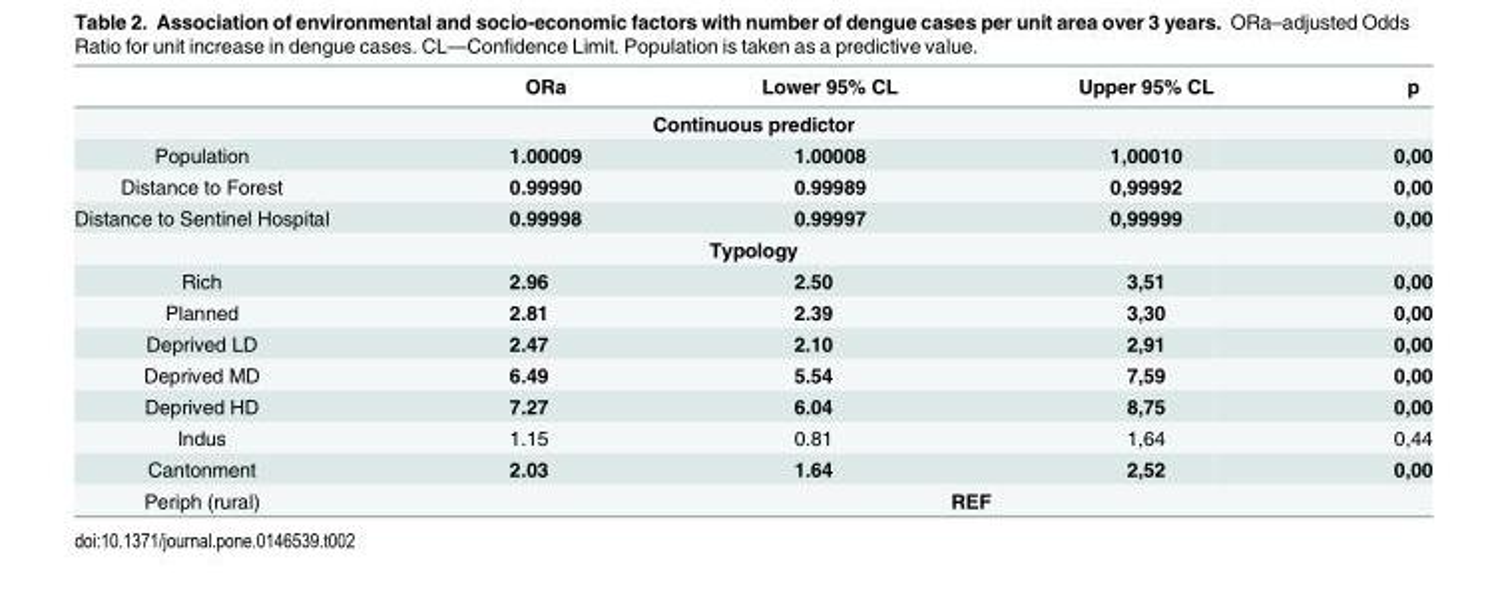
<table><thead><tr><td></td><td>ORa</td><td>Lower 95% CL</td><td>Upper 95% CL</td><td>p</td></tr></thead><tbody><tr><td colspan="5">Continuous predictor</td></tr><tr><td>Population</td><td>1.00009</td><td>1.00008</td><td>1,00010</td><td>0,00</td></tr><tr><td>Distance to Forest</td><td>0.99990</td><td>0.99989</td><td>0,99992</td><td>0,00</td></tr><tr><td>Distance to Sentinel Hospital</td><td>0.99998</td><td>0.99997</td><td>0,99999</td><td>0,00</td></tr><tr><td colspan="5">Typology</td></tr><tr><td>Rich</td><td>2.96</td><td>2.50</td><td>3,51</td><td>0,00</td></tr><tr><td>Planned</td><td>2.81</td><td>2.39</td><td>3,30</td><td>0,00</td></tr><tr><td>Deprived LD</td><td>2.47</td><td>2.10</td><td>2,91</td><td>0,00</td></tr><tr><td>Deprived MD</td><td>6.49</td><td>5.54</td><td>7,59</td><td>0,00</td></tr><tr><td>Deprived HD</td><td>7.27</td><td>6.04</td><td>8,75</td><td>0,00</td></tr><tr><td>Indus</td><td>1.15</td><td>0.81</td><td>1,64</td><td>0,44</td></tr><tr><td>Cantonment</td><td>2.03</td><td>1.64</td><td>2,52</td><td>0,00</td></tr><tr><td>Periph (rural)</td><td colspan="4">REF</td></tr></tbody></table>